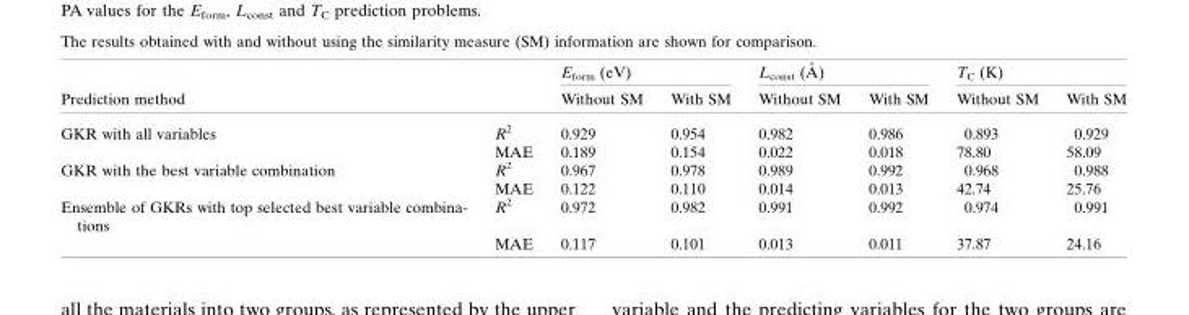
<table><thead><tr><td rowspan="2">Prediction method</td><td rowspan="2"></td><td colspan="2">E<sub>form</sub> (eV)</td><td colspan="2">Lconst (A˚ )</td><td colspan="2">T<sub>C</sub> (K)</td></tr><tr><td>Without SM</td><td>With SM</td><td>Without SM</td><td>With SM</td><td>Without SM</td><td>With SM</td></tr></thead><tbody><tr><td rowspan="2">GKR with all variables</td><td>R<sup>2</sup></td><td>0.929</td><td>0.954</td><td>0.982</td><td>0.986</td><td>0.893</td><td>0.929</td></tr><tr><td>MAE</td><td>0.189</td><td>0.154</td><td>0.022</td><td>0.018</td><td>78.80</td><td>58.09</td></tr><tr><td rowspan="2">GKR with the best variable combination</td><td>R<sup>2</sup></td><td>0.967</td><td>0.978</td><td>0.989</td><td>0.992</td><td>0.968</td><td>0.988</td></tr><tr><td>MAE</td><td>0.122</td><td>0.110</td><td>0.014</td><td>0.013</td><td>42.74</td><td>25.76</td></tr><tr><td rowspan="2">Ensemble of GKRs with top selected best variable combina- tions</td><td>R<sup>2</sup></td><td>0.972</td><td>0.982</td><td>0.991</td><td>0.992</td><td>0.974</td><td>0.991</td></tr><tr><td>MAE</td><td>0.117</td><td>0.101</td><td>0.013</td><td>0.011</td><td>37.87</td><td>24.16</td></tr></tbody></table>